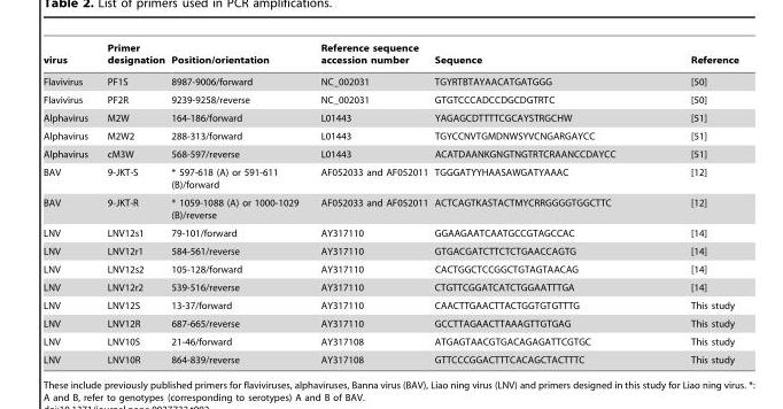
<table><thead><tr><td>virus</td><td>Primer designation</td><td>Position/orientation</td><td>Reference sequence accession number</td><td>Sequence</td><td>Reference</td></tr></thead><tbody><tr><td>Flavivirus</td><td>PF1S</td><td>8987-9006/forward</td><td>NC_002031</td><td>TGYRTBTAYAACATGATGGG</td><td>[50]</td></tr><tr><td>Flavivirus</td><td>PF2R</td><td>9239-9258/reverse</td><td>NC_002031</td><td>GTGTCCCADCCDGCDGTRTC</td><td>[50]</td></tr><tr><td>Alphavirus</td><td>M2W</td><td>164-186/forward</td><td>L01443</td><td>YAGAGCDTTTTCGCAYSTRGCHW</td><td>[51]</td></tr><tr><td>Alphavirus</td><td>M2W2</td><td>288-313/forward</td><td>L01443</td><td>TGYCCNVTGMDNWSYVCNGARGAYCC</td><td>[51]</td></tr><tr><td>Alphavirus</td><td>cM3W</td><td>568-597/reverse</td><td>L01443</td><td>ACATDAANKGNGTNGTRTCRAANCCDAYCC</td><td>[51]</td></tr><tr><td>BAV</td><td>9-JKT-S</td><td>* 597-618 (A) or 591-611 (B)/forward</td><td>AF052033 and AF052011</td><td>TGGGATYYHAASAWGATYAAAC</td><td>[12]</td></tr><tr><td>BAV</td><td>9-JKT-R</td><td>* 1059-1088 (A) or 1000-1029 (B)/reverse</td><td>AF052033 and AF052011</td><td>ACTCAGTKASTACTMYCRRGGGGTGGCTTC</td><td>[12]</td></tr><tr><td>LNV</td><td>LNV12s1</td><td>79-101/forward</td><td>AY317110</td><td>GGAAGAATCAATGCCGTAGCCAC</td><td>[14]</td></tr><tr><td>LNV</td><td>LNV12r1</td><td>584-561/reverse</td><td>AY317110</td><td>GTGACGATCTTCTCTGAACCAGTG</td><td>[14]</td></tr><tr><td>LNV</td><td>LNV12s2</td><td>105-128/forward</td><td>AY317110</td><td>CACTGGCTCCGGCTGTAGTAACAG</td><td>[14]</td></tr><tr><td>LNV</td><td>LNV12r2</td><td>539-516/reverse</td><td>AY317110</td><td>CTGTTCGGATCATCTGGAATTTGA</td><td>[14]</td></tr><tr><td>LNV</td><td>LNV12S</td><td>13-37/forward</td><td>AY317110</td><td>CAACTTGAACTTACTGGTGTGTTTG</td><td>This study</td></tr><tr><td>LNV</td><td>LNV12R</td><td>687-665/reverse</td><td>AY317110</td><td>GCCTTAGAACTTAAAGTTGTGAG</td><td>This study</td></tr><tr><td>LNV</td><td>LNV10S</td><td>21-46/forward</td><td>AY317108</td><td>ATGAGTAACGTGACAGAGATTCGTGC</td><td>This study</td></tr><tr><td>LNV</td><td>LNV10R</td><td>864-839/reverse</td><td>AY317108</td><td>GTTCCCGGACTTTCACAGCTACTTTC</td><td>This study</td></tr></tbody></table>